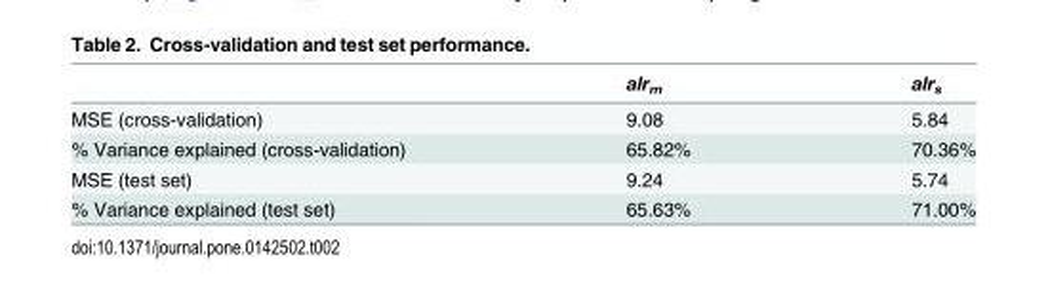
<table><thead><tr><td></td><td>alr<sub>m</sub></td><td>alr<sub>s</sub></td></tr></thead><tbody><tr><td>MSE (cross-validation)</td><td>9.08</td><td>5.84</td></tr><tr><td>% Variance explained (cross-validation)</td><td>65.82%</td><td>70.36%</td></tr><tr><td>MSE (test set)</td><td>9.24</td><td>5.74</td></tr><tr><td>% Variance explained (test set)</td><td>65.63%</td><td>71.00%</td></tr></tbody></table>